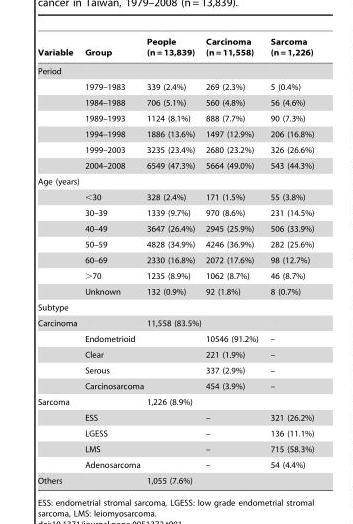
<table><thead><tr><td>Variable</td><td>Group</td><td>People (n = 13,839)</td><td>Carcinoma (n = 11,558)</td><td>Sarcoma (n = 1,226)</td></tr></thead><tbody><tr><td colspan="5">Period</td></tr><tr><td></td><td>1979–1983</td><td>339 (2.4%)</td><td>269 (2.3%)</td><td>5 (0.4%)</td></tr><tr><td></td><td>1984–1988</td><td>706 (5.1%)</td><td>560 (4.8%)</td><td>56 (4.6%)</td></tr><tr><td></td><td>1989–1993</td><td>1124 (8.1%)</td><td>888 (7.7%)</td><td>90 (7.3%)</td></tr><tr><td></td><td>1994–1998</td><td>1886 (13.6%)</td><td>1497 (12.9%)</td><td>206 (16.8%)</td></tr><tr><td></td><td>1999–2003</td><td>3235 (23.4%)</td><td>2680 (23.2%)</td><td>326 (26.6%)</td></tr><tr><td></td><td>2004–2008</td><td>6549 (47.3%)</td><td>5664 (49.0%)</td><td>543 (44.3%)</td></tr><tr><td colspan="5">Age (years)</td></tr><tr><td></td><td>&lt;30</td><td>328 (2.4%)</td><td>171 (1.5%)</td><td>55 (3.8%)</td></tr><tr><td></td><td>30–39</td><td>1339 (9.7%)</td><td>970 (8.6%)</td><td>231 (14.5%)</td></tr><tr><td></td><td>40–49</td><td>3647 (26.4%)</td><td>2945 (25.9%)</td><td>506 (33.9%)</td></tr><tr><td></td><td>50–59</td><td>4828 (34.9%)</td><td>4246 (36.9%)</td><td>282 (25.6%)</td></tr><tr><td></td><td>60–69</td><td>2330 (16.8%)</td><td>2072 (17.6%)</td><td>98 (12.7%)</td></tr><tr><td></td><td>&gt;70</td><td>1235 (8.9%)</td><td>1062 (8.7%)</td><td>46 (8.7%)</td></tr><tr><td></td><td>Unknown</td><td>132 (0.9%)</td><td>92 (1.8%)</td><td>8 (0.7%)</td></tr><tr><td colspan="5">Subtype</td></tr><tr><td rowspan="5">Carcinoma</td><td></td><td>11,558 (83.5%)</td><td></td><td></td></tr><tr><td>Endometrioid</td><td></td><td>10546 (91.2%)</td><td>–</td></tr><tr><td>Clear</td><td></td><td>221 (1.9%)</td><td>–</td></tr><tr><td>Serous</td><td></td><td>337 (2.9%)</td><td>–</td></tr><tr><td>Carcinosarcoma</td><td></td><td>454 (3.9%)</td><td>–</td></tr><tr><td rowspan="5">Sarcoma</td><td></td><td>1,226 (8.9%)</td><td></td><td></td></tr><tr><td>ESS</td><td></td><td>–</td><td>321 (26.2%)</td></tr><tr><td>LGESS</td><td></td><td>–</td><td>136 (11.1%)</td></tr><tr><td>LMS</td><td></td><td>–</td><td>715 (58.3%)</td></tr><tr><td>Adenosarcoma</td><td></td><td>–</td><td>54 (4.4%)</td></tr><tr><td>Others</td><td></td><td>1,055 (7.6%)</td><td></td><td></td></tr></tbody></table>